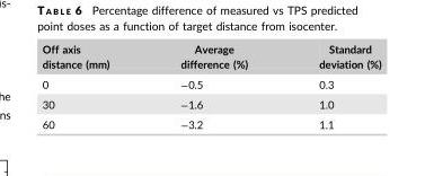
<table><thead><tr><td>Off axis distance (mm)</td><td>Average difference (%)</td><td>Standard deviation (%)</td></tr></thead><tbody><tr><td>0</td><td>−0.5</td><td>0.3</td></tr><tr><td>30</td><td>−1.6</td><td>1.0</td></tr><tr><td>60</td><td>−3.2</td><td>1.1</td></tr></tbody></table>